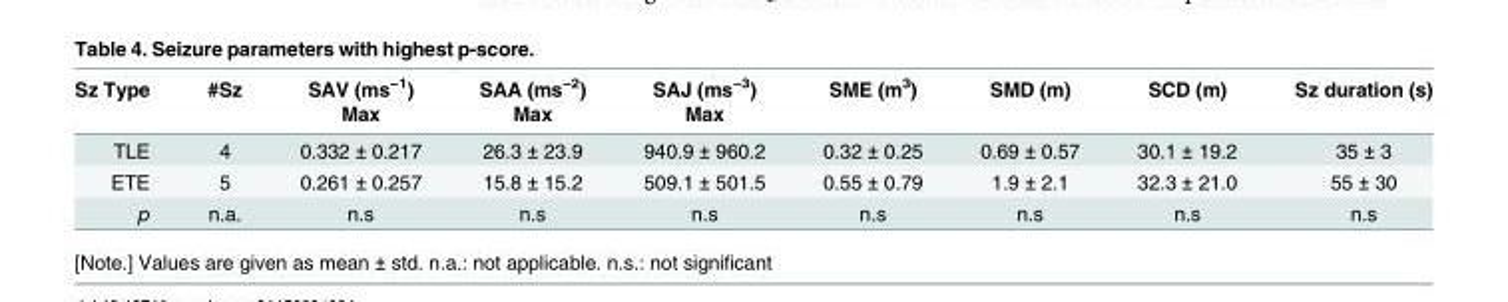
<table><thead><tr><td rowspan="2">Sz Type</td><td rowspan="2">#Sz</td><td rowspan="2">SAV (ms<sup>−1</sup>) Max</td><td rowspan="2">SAA (ms<sup>−2</sup>) Max</td><td rowspan="2">SAJ (ms<sup>−3</sup>) Max</td><td rowspan="2">SME (m<sup>3</sup>)</td><td rowspan="2">SMD (m)</td><td rowspan="2">SCD (m)</td><td rowspan="2">Sz duration (s)</td></tr><tr></tr></thead><tbody><tr><td>TLE</td><td>4</td><td>0.332 ± 0.217</td><td>26.3 ± 23.9</td><td>940.9 ± 960.2</td><td>0.32 ± 0.25</td><td>0.69 ± 0.57</td><td>30.1 ± 19.2</td><td>35 ± 3</td></tr><tr><td>ETE</td><td>5</td><td>0.261 ± 0.257</td><td>15.8 ± 15.2</td><td>509.1 ± 501.5</td><td>0.55 ± 0.79</td><td>1.9 ± 2.1</td><td>32.3 ± 21.0</td><td>55 ± 30</td></tr><tr><td>p</td><td>n.a.</td><td>n.s</td><td>n.s</td><td>n.s</td><td>n.s</td><td>n.s</td><td>n.s</td><td>n.s</td></tr></tbody></table>